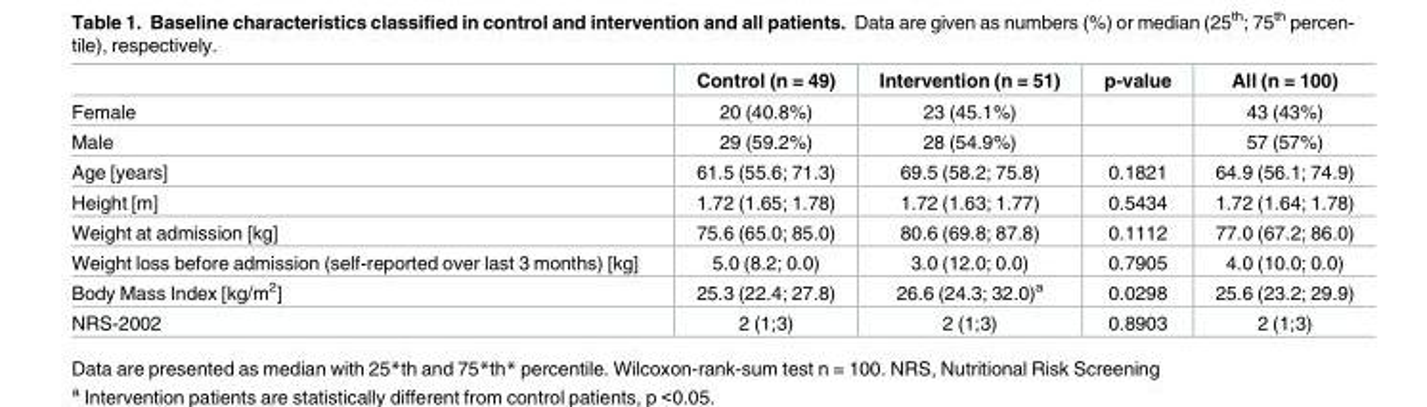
<table><thead><tr><td></td><td>Control (n = 49)</td><td>Intervention (n = 51)</td><td>p-value</td><td>All (n = 100)</td></tr></thead><tbody><tr><td>Female</td><td>20 (40.8%)</td><td>23 (45.1%)</td><td></td><td>43 (43%)</td></tr><tr><td>Male</td><td>29 (59.2%)</td><td>28 (54.9%)</td><td></td><td>57 (57%)</td></tr><tr><td>Age [years]</td><td>61.5 (55.6; 71.3)</td><td>69.5 (58.2; 75.8)</td><td>0.1821</td><td>64.9 (56.1; 74.9)</td></tr><tr><td>Height [m]</td><td>1.72 (1.65; 1.78)</td><td>1.72 (1.63; 1.77)</td><td>0.5434</td><td>1.72 (1.64; 1.78)</td></tr><tr><td>Weight at admission [kg]</td><td>75.6 (65.0; 85.0)</td><td>80.6 (69.8; 87.8)</td><td>0.1112</td><td>77.0 (67.2; 86.0)</td></tr><tr><td>Weight loss before admission (self-reported over last 3 months) [kg]</td><td>5.0 (8.2; 0.0)</td><td>3.0 (12.0; 0.0)</td><td>0.7905</td><td>4.0 (10.0; 0.0)</td></tr><tr><td>Body Mass Index [kg/m<sup>2</sup>]</td><td>25.3 (22.4; 27.8)</td><td>26.6 (24.3; 32.0)<sup>a</sup></td><td>0.0298</td><td>25.6 (23.2; 29.9)</td></tr><tr><td>NRS-2002</td><td>2 (1;3)</td><td>2 (1;3)</td><td>0.8903</td><td>2 (1;3)</td></tr></tbody></table>